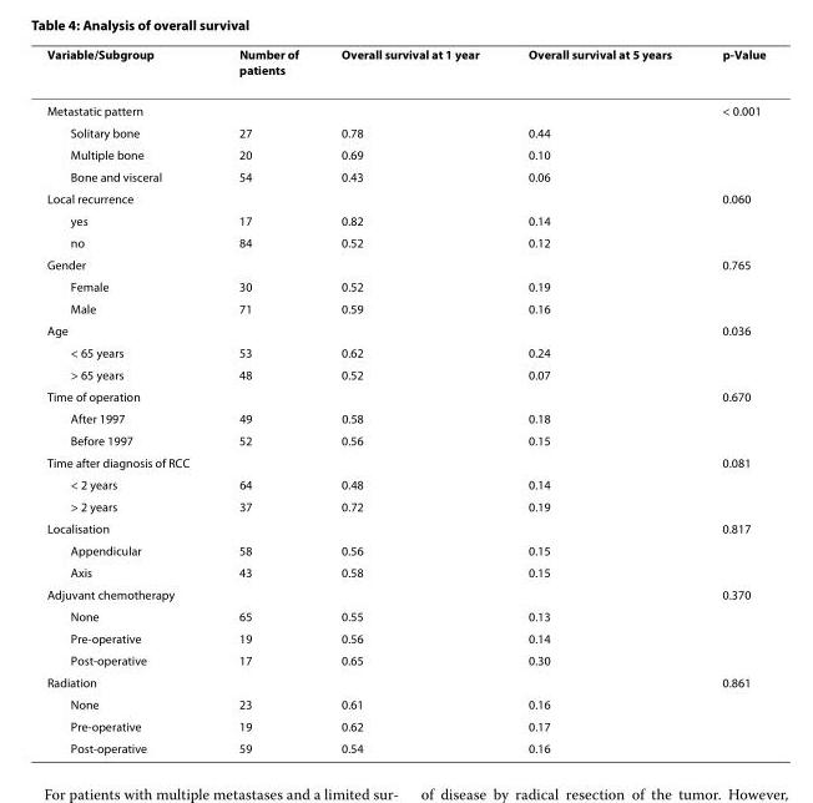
<table><thead><tr><td>Variable/Subgroup</td><td>Number of patients</td><td>Overall survival at 1 year</td><td>Overall survival at 5 years</td><td>p-Value</td></tr></thead><tbody><tr><td>Metastatic pattern</td><td></td><td></td><td></td><td>&lt; 0.001</td></tr><tr><td>Solitary bone</td><td>27</td><td>0.78</td><td>0.44</td><td></td></tr><tr><td>Multiple bone</td><td>20</td><td>0.69</td><td>0.10</td><td></td></tr><tr><td>Bone and visceral</td><td>54</td><td>0.43</td><td>0.06</td><td></td></tr><tr><td>Local recurrence</td><td></td><td></td><td></td><td>0.060</td></tr><tr><td>yes</td><td>17</td><td>0.82</td><td>0.14</td><td></td></tr><tr><td>no</td><td>84</td><td>0.52</td><td>0.12</td><td></td></tr><tr><td>Gender</td><td></td><td></td><td></td><td>0.765</td></tr><tr><td>Female</td><td>30</td><td>0.52</td><td>0.19</td><td></td></tr><tr><td>Male</td><td>71</td><td>0.59</td><td>0.16</td><td></td></tr><tr><td>Age</td><td></td><td></td><td></td><td>0.036</td></tr><tr><td>&lt; 65 years</td><td>53</td><td>0.62</td><td>0.24</td><td></td></tr><tr><td>&gt; 65 years</td><td>48</td><td>0.52</td><td>0.07</td><td></td></tr><tr><td>Time of operation</td><td></td><td></td><td></td><td>0.670</td></tr><tr><td>After 1997</td><td>49</td><td>0.58</td><td>0.18</td><td></td></tr><tr><td>Before 1997</td><td>52</td><td>0.56</td><td>0.15</td><td></td></tr><tr><td>Time after diagnosis of RCC</td><td></td><td></td><td></td><td>0.081</td></tr><tr><td>&lt; 2 years</td><td>64</td><td>0.48</td><td>0.14</td><td></td></tr><tr><td>&gt; 2 years</td><td>37</td><td>0.72</td><td>0.19</td><td></td></tr><tr><td>Localisation</td><td></td><td></td><td></td><td>0.817</td></tr><tr><td>Appendicular</td><td>58</td><td>0.56</td><td>0.15</td><td></td></tr><tr><td>Axis</td><td>43</td><td>0.58</td><td>0.15</td><td></td></tr><tr><td>Adjuvant chemotherapy</td><td></td><td></td><td></td><td>0.370</td></tr><tr><td>None</td><td>65</td><td>0.55</td><td>0.13</td><td></td></tr><tr><td>Pre-operative</td><td>19</td><td>0.56</td><td>0.14</td><td></td></tr><tr><td>Post-operative</td><td>17</td><td>0.65</td><td>0.30</td><td></td></tr><tr><td>Radiation</td><td></td><td></td><td></td><td>0.861</td></tr><tr><td>None</td><td>23</td><td>0.61</td><td>0.16</td><td></td></tr><tr><td>Pre-operative</td><td>19</td><td>0.62</td><td>0.17</td><td></td></tr><tr><td>Post-operative</td><td>59</td><td>0.54</td><td>0.16</td><td></td></tr></tbody></table>